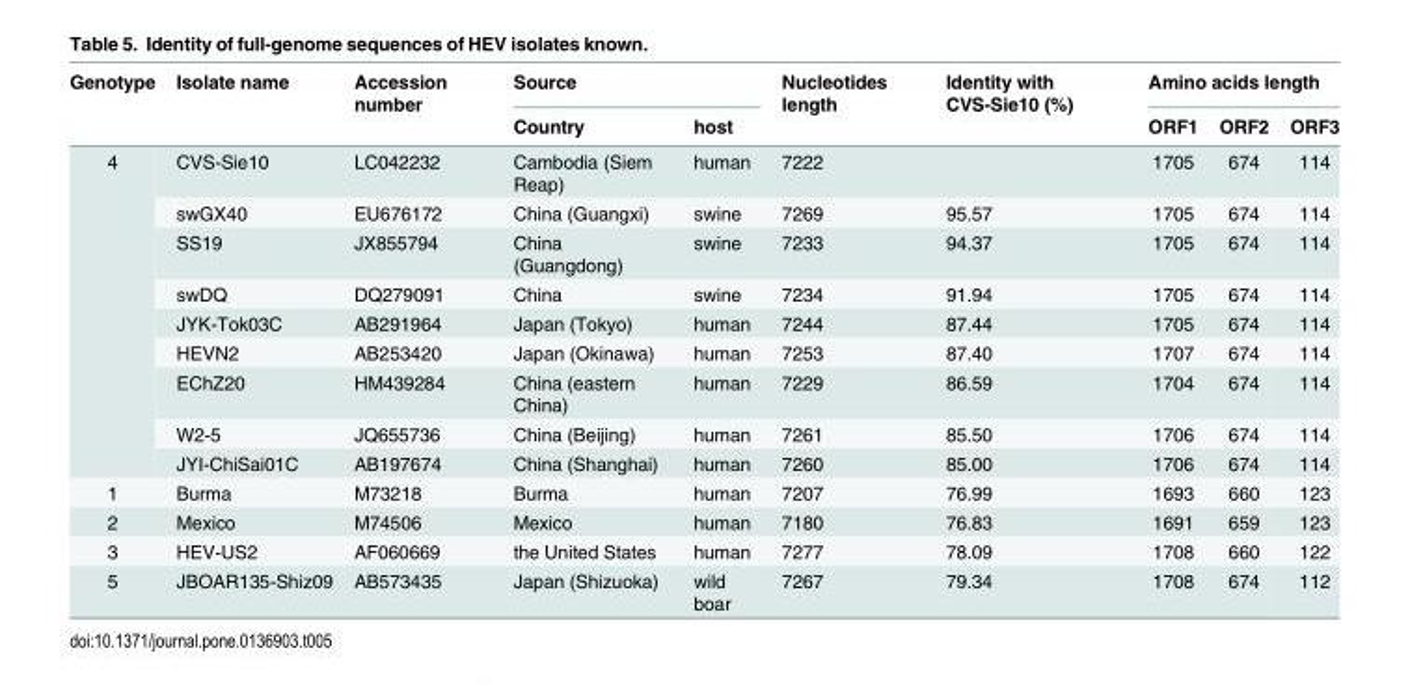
<table><thead><tr><td rowspan="2">Genotype</td><td rowspan="2">Isolate name</td><td rowspan="2">Accession number</td><td colspan="2">Source</td><td rowspan="2">Nucleotides length</td><td rowspan="2">Identity with CVS-Sie10 (%)</td><td colspan="3">Amino acids length</td></tr><tr><td>Country</td><td>host</td><td>ORF1</td><td>ORF2</td><td>ORF3</td></tr></thead><tbody><tr><td rowspan="9">4</td><td>CVS-Sie10</td><td>LC042232</td><td>Cambodia (Siem Reap)</td><td>human</td><td>7222</td><td></td><td>1705</td><td>674</td><td>114</td></tr><tr><td>swGX40</td><td>EU676172</td><td>China (Guangxi)</td><td>swine</td><td>7269</td><td>95.57</td><td>1705</td><td>674</td><td>114</td></tr><tr><td>SS19</td><td>JX855794</td><td>China (Guangdong)</td><td>swine</td><td>7233</td><td>94.37</td><td>1705</td><td>674</td><td>114</td></tr><tr><td>swDQ</td><td>DQ279091</td><td>China</td><td>swine</td><td>7234</td><td>91.94</td><td>1705</td><td>674</td><td>114</td></tr><tr><td>JYK-Tok03C</td><td>AB291964</td><td>Japan (Tokyo)</td><td>human</td><td>7244</td><td>87.44</td><td>1705</td><td>674</td><td>114</td></tr><tr><td>HEVN2</td><td>AB253420</td><td>Japan (Okinawa)</td><td>human</td><td>7253</td><td>87.40</td><td>1707</td><td>674</td><td>114</td></tr><tr><td>EChZ20</td><td>HM439284</td><td>China (eastern China)</td><td>human</td><td>7229</td><td>86.59</td><td>1704</td><td>674</td><td>114</td></tr><tr><td>W2-5</td><td>JQ655736</td><td>China (Beijing)</td><td>human</td><td>7261</td><td>85.50</td><td>1706</td><td>674</td><td>114</td></tr><tr><td>JYI-ChiSai01C</td><td>AB197674</td><td>China (Shanghai)</td><td>human</td><td>7260</td><td>85.00</td><td>1706</td><td>674</td><td>114</td></tr><tr><td>1</td><td>Burma</td><td>M73218</td><td>Burma</td><td>human</td><td>7207</td><td>76.99</td><td>1693</td><td>660</td><td>123</td></tr><tr><td>2</td><td>Mexico</td><td>M74506</td><td>Mexico</td><td>human</td><td>7180</td><td>76.83</td><td>1691</td><td>659</td><td>123</td></tr><tr><td>3</td><td>HEV-US2</td><td>AF060669</td><td>the United States</td><td>human</td><td>7277</td><td>78.09</td><td>1708</td><td>660</td><td>122</td></tr><tr><td>5</td><td>JBOAR135-Shiz09</td><td>AB573435</td><td>Japan (Shizuoka)</td><td>wild boar</td><td>7267</td><td>79.34</td><td>1708</td><td>674</td><td>112</td></tr></tbody></table>